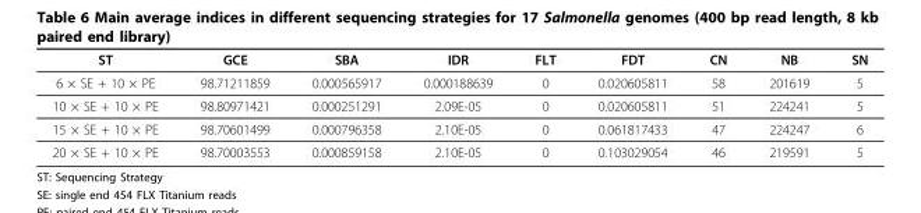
<table><thead><tr><td>ST</td><td>GCE</td><td>SBA</td><td>IDR</td><td>FLT</td><td>FDT</td><td>CN</td><td>NB</td><td>SN</td></tr></thead><tbody><tr><td>6 × SE + 10 × PE</td><td>98.71211859</td><td>0.000565917</td><td>0.000188639</td><td>0</td><td>0.020605811</td><td>58</td><td>201619</td><td>5</td></tr><tr><td>10 × SE + 10 × PE</td><td>98.80971421</td><td>0.000251291</td><td>2.09E-05</td><td>0</td><td>0.020605811</td><td>51</td><td>224241</td><td>5</td></tr><tr><td>15 × SE + 10 × PE</td><td>98.70601499</td><td>0.000796358</td><td>2.10E-05</td><td>0</td><td>0.061817433</td><td>47</td><td>224247</td><td>6</td></tr><tr><td>20 × SE + 10 × PE</td><td>98.70003553</td><td>0.000859158</td><td>2.10E-05</td><td>0</td><td>0.103029054</td><td>46</td><td>219591</td><td>5</td></tr></tbody></table>